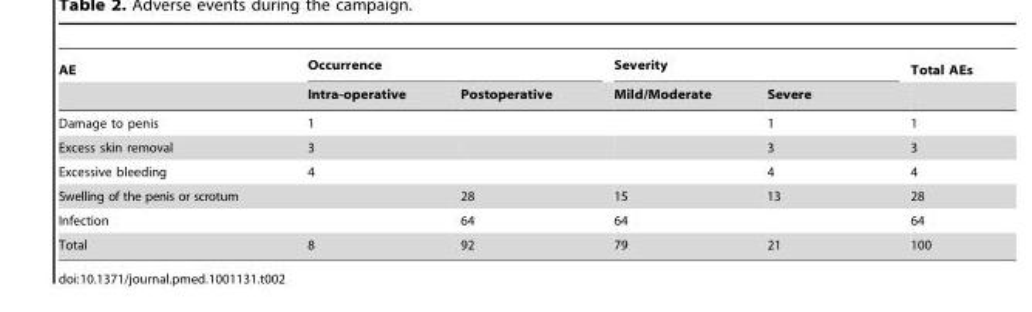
<table><thead><tr><td rowspan="2">AE</td><td colspan="2">Occurrence</td><td colspan="2">Severity</td><td rowspan="2">Total AEs</td></tr><tr><td>Intra-operative</td><td>Postoperative</td><td>Mild/Moderate</td><td>Severe</td></tr></thead><tbody><tr><td>Damage to penis</td><td>1</td><td></td><td></td><td>1</td><td>1</td></tr><tr><td>Excess skin removal</td><td>3</td><td></td><td></td><td>3</td><td>3</td></tr><tr><td>Excessive bleeding</td><td>4</td><td></td><td></td><td>4</td><td>4</td></tr><tr><td>Swelling of the penis or scrotum</td><td></td><td>28</td><td>15</td><td>13</td><td>28</td></tr><tr><td>Infection</td><td></td><td>64</td><td>64</td><td></td><td>64</td></tr><tr><td>Total</td><td>8</td><td>92</td><td>79</td><td>21</td><td>100</td></tr></tbody></table>